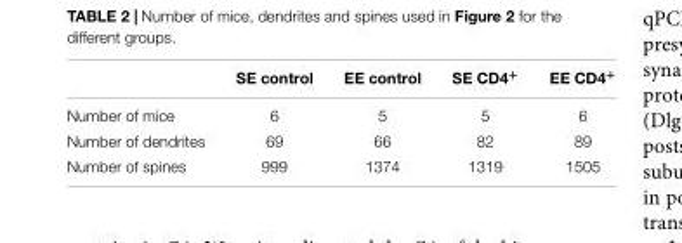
<table><thead><tr><td></td><td>SE control</td><td>EE control</td><td>SE CD4<sup>+</sup></td><td>EE CD4<sup>+</sup></td></tr></thead><tbody><tr><td>Number of mice</td><td>6</td><td>5</td><td>5</td><td>6</td></tr><tr><td>Number of dendrites</td><td>69</td><td>66</td><td>82</td><td>89</td></tr><tr><td>Number of spines</td><td>999</td><td>1374</td><td>1319</td><td>1505</td></tr></tbody></table>